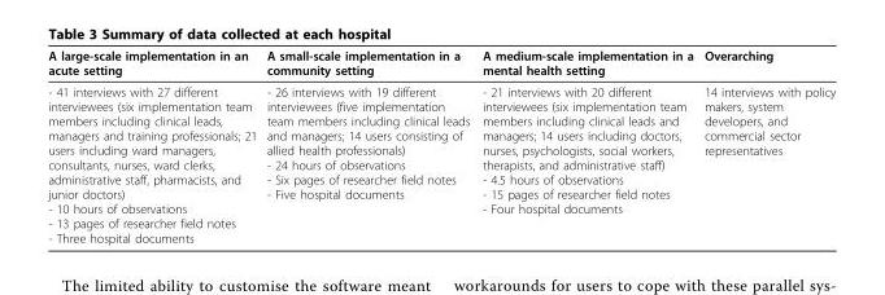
<table><thead><tr><td>A large-scale implementation in an acute setting</td><td>A small-scale implementation in a community setting</td><td>A medium-scale implementation in a mental health setting</td><td>Overarching</td></tr></thead><tbody><tr><td>- 41 interviews with 27 different interviewees (six implementation team members including clinical leads, managers and training professionals; 21 users including ward managers, consultants, nurses, ward clerks, administrative staff, pharmacists, and junior doctors) - 10 hours of observations - 13 pages of researcher field notes - Three hospital documents</td><td>- 26 interviews with 19 different interviewees (five implementation team members including clinical leads and managers; 14 users consisting of allied health professionals) - 24 hours of observations - Six pages of researcher field notes - Five hospital documents</td><td>- 21 interviews with 20 different interviewees (six implementation team members including clinical leads and managers; 14 users including doctors, nurses, psychologists, social workers, therapists, and administrative staff) - 4.5 hours of observations - 15 pages of researcher field notes - Four hospital documents</td><td>14 interviews with policy makers, system developers, and commercial sector representatives</td></tr></tbody></table>